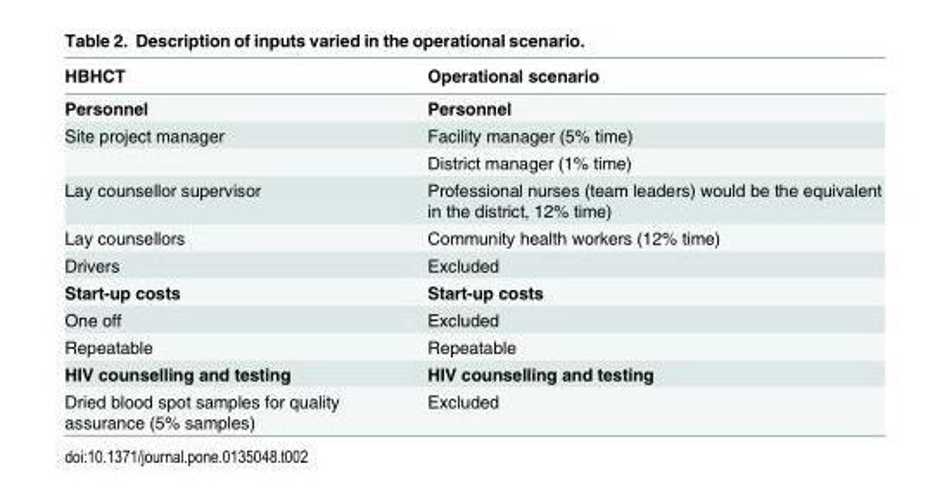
<table><thead><tr><td>HBHCT</td><td>Operational scenario</td></tr></thead><tbody><tr><td>Personnel</td><td>Personnel</td></tr><tr><td rowspan="2">Site project manager</td><td>Facility manager (5% time)</td></tr><tr><td>District manager (1% time)</td></tr><tr><td>Lay counsellor supervisor</td><td>Professional nurses (team leaders) would be the equivalent in the district, 12% time)</td></tr><tr><td>Lay counsellors</td><td>Community health workers (12% time)</td></tr><tr><td>Drivers</td><td>Excluded</td></tr><tr><td>Start-up costs</td><td>Start-up costs</td></tr><tr><td>One off</td><td>Excluded</td></tr><tr><td>Repeatable</td><td>Repeatable</td></tr><tr><td>HIV counselling and testing</td><td>HIV counselling and testing</td></tr><tr><td>Dried blood spot samples for quality assurance (5% samples)</td><td>Excluded</td></tr></tbody></table>